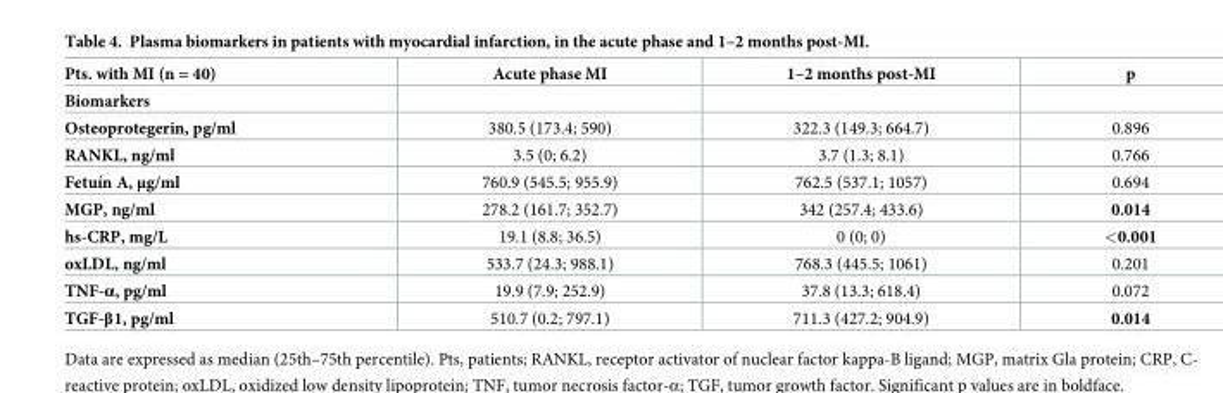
<table><thead><tr><td>Pts. with MI (n = 40)</td><td>Acute phase MI</td><td>1–2 months post-MI</td><td>p</td></tr></thead><tbody><tr><td colspan="4">Biomarkers</td></tr><tr><td>Osteoprotegerin, pg/ml</td><td>380.5 (173.4; 590)</td><td>322.3 (149.3; 664.7)</td><td>0.896</td></tr><tr><td>RANKL, ng/ml</td><td>3.5 (0; 6.2)</td><td>3.7 (1.3; 8.1)</td><td>0.766</td></tr><tr><td>Fetuı´n A, μg/ml</td><td>760.9 (545.5; 955.9)</td><td>762.5 (537.1; 1057)</td><td>0.694</td></tr><tr><td>MGP, ng/ml</td><td>278.2 (161.7; 352.7)</td><td>342 (257.4; 433.6)</td><td>0.014</td></tr><tr><td>hs-CRP, mg/L</td><td>19.1 (8.8; 36.5)</td><td>0 (0; 0)</td><td>&lt;0.001</td></tr><tr><td>oxLDL, ng/ml</td><td>533.7 (24.3; 988.1)</td><td>768.3 (445.5; 1061)</td><td>0.201</td></tr><tr><td>TNF-α, pg/ml</td><td>19.9 (7.9; 252.9)</td><td>37.8 (13.3; 618.4)</td><td>0.072</td></tr><tr><td>TGF-β1, pg/ml</td><td>510.7 (0.2; 797.1)</td><td>711.3 (427.2; 904.9)</td><td>0.014</td></tr></tbody></table>